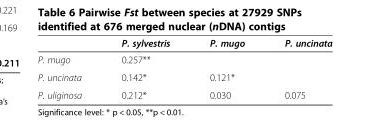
<table><thead><tr><td></td><td>P. sylvestris</td><td>P. mugo</td><td>P. uncinata</td></tr></thead><tbody><tr><td>P. mugo</td><td>0.257**</td><td></td><td></td></tr><tr><td>P. uncinata</td><td>0.142*</td><td>0.121*</td><td></td></tr><tr><td>P. uliginosa</td><td>0.212*</td><td>0.030</td><td>0.075</td></tr></tbody></table>